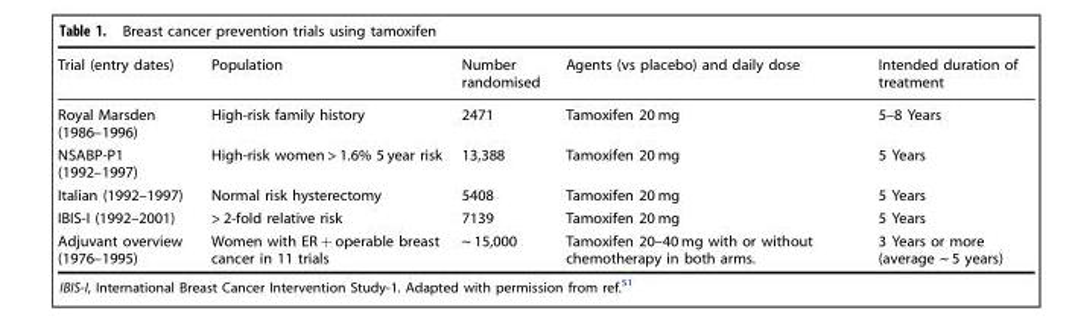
<table><thead><tr><td>Trial (entry dates)</td><td>Population</td><td>Number randomised</td><td>Agents (vs placebo) and daily dose</td><td>Intended duration of treatment</td></tr></thead><tbody><tr><td>Royal Marsden (1986–1996)</td><td>High-risk family history</td><td>2471</td><td>Tamoxifen 20 mg</td><td>5–8 Years</td></tr><tr><td>NSABP-P1 (1992–1997)</td><td>High-risk women &gt; 1.6% 5 year risk</td><td>13,388</td><td>Tamoxifen 20 mg</td><td>5 Years</td></tr><tr><td>Italian (1992–1997)</td><td>Normal risk hysterectomy</td><td>5408</td><td>Tamoxifen 20 mg</td><td>5 Years</td></tr><tr><td>IBIS-I (1992–2001)</td><td>&gt; 2-fold relative risk</td><td>7139</td><td>Tamoxifen 20 mg</td><td>5 Years</td></tr><tr><td>Adjuvant overview (1976–1995)</td><td>Women with ER + operable breast cancer in 11 trials</td><td>~ 15,000</td><td>Tamoxifen 20–40 mg with or without chemotherapy in both arms.</td><td>3 Years or more (average ~ 5 years)</td></tr></tbody></table>